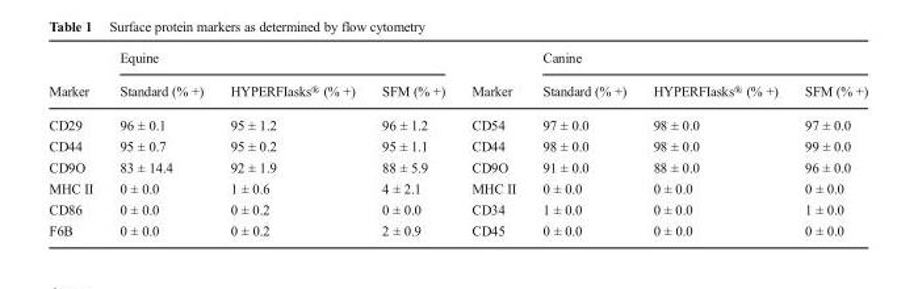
<table><thead><tr><td rowspan="2">Marker</td><td colspan="3">Equine</td><td rowspan="2">Marker</td><td colspan="3">Canine</td></tr><tr><td>Standard (% +)</td><td>HYPERFIasks® (% +)</td><td>SFM (% +)</td><td>Standard (% +)</td><td>HYPERFIasks® (% +)</td><td>SFM (% +)</td></tr></thead><tbody><tr><td>CD29</td><td>96 ± 0.1</td><td>95 ± 1.2</td><td>96 ± 1.2</td><td>CD54</td><td>97 ± 0.0</td><td>98 ± 0.0</td><td>97 ± 0.0</td></tr><tr><td>CD44</td><td>95 ± 0.7</td><td>95 ± 0.2</td><td>95 ± 1.1</td><td>CD44</td><td>98 ± 0.0</td><td>98 ± 0.0</td><td>99 ± 0.0</td></tr><tr><td>CD9O</td><td>83 ± 14.4</td><td>92 ± 1.9</td><td>88 ± 5.9</td><td>CD9O</td><td>91 ± 0.0</td><td>88 ± 0.0</td><td>96 ± 0.0</td></tr><tr><td>MHC II</td><td>0 ± 0.0</td><td>1 ± 0.6</td><td>4 ± 2.1</td><td>MHC II</td><td>0 ± 0.0</td><td>0 ± 0.0</td><td>0 ± 0.0</td></tr><tr><td>CD86</td><td>0 ± 0.0</td><td>0 ± 0.2</td><td>0 ± 0.0</td><td>CD34</td><td>1 ± 0.0</td><td>0 ± 0.0</td><td>1 ± 0.0</td></tr><tr><td>F6B</td><td>0 ± 0.0</td><td>0 ± 0.2</td><td>2 ± 0.9</td><td>CD45</td><td>0 ± 0.0</td><td>0 ± 0.0</td><td>0 ± 0.0</td></tr></tbody></table>